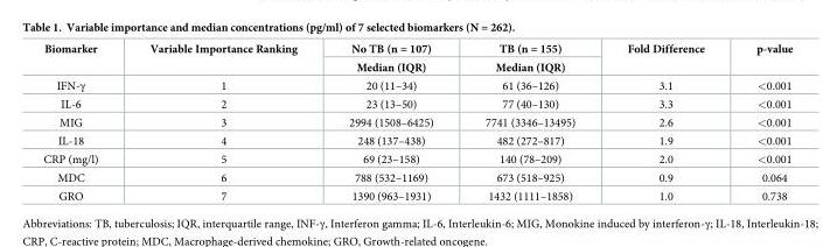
<table><thead><tr><td rowspan="2">Biomarker</td><td rowspan="2">Variable Importance Ranking</td><td rowspan="2">No TB (n = 107) Median (IQR)</td><td rowspan="2">TB (n = 155) Median (IQR)</td><td rowspan="2">Fold Difference</td><td rowspan="2">p-value</td></tr><tr></tr></thead><tbody><tr><td>IFN-γ</td><td>1</td><td>20 (11–34)</td><td>61 (36–126)</td><td>3.1</td><td>&lt;0.001</td></tr><tr><td>IL-6</td><td>2</td><td>23 (13–50)</td><td>77 (40–130)</td><td>3.3</td><td>&lt;0.001</td></tr><tr><td>MIG</td><td>3</td><td>2994 (1508–6425)</td><td>7741 (3346–13495)</td><td>2.6</td><td>&lt;0.001</td></tr><tr><td>IL-18</td><td>4</td><td>248 (137–438)</td><td>482 (272–817)</td><td>1.9</td><td>&lt;0.001</td></tr><tr><td>CRP (mg/l)</td><td>5</td><td>69 (23–158)</td><td>140 (78–209)</td><td>2.0</td><td>&lt;0.001</td></tr><tr><td>MDC</td><td>6</td><td>788 (532–1169)</td><td>673 (518–925)</td><td>0.9</td><td>0.064</td></tr><tr><td>GRO</td><td>7</td><td>1390 (963–1931)</td><td>1432 (1111–1858)</td><td>1.0</td><td>0.738</td></tr></tbody></table>